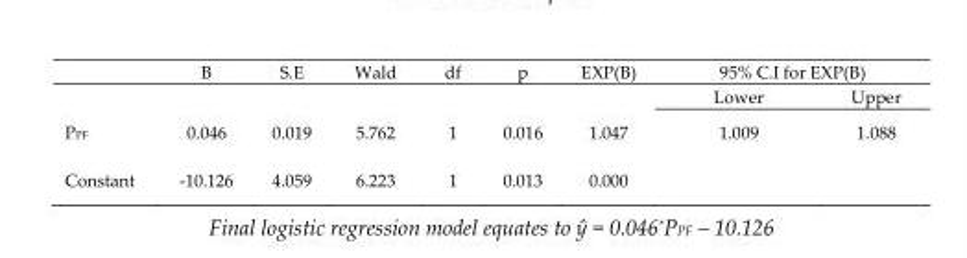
<table><thead><tr><td rowspan="2"></td><td rowspan="2">B</td><td rowspan="2">S.E</td><td rowspan="2">Wald</td><td rowspan="2">df</td><td rowspan="2">p</td><td rowspan="2">EXP(B)</td><td colspan="2">95% C.I for EXP(B)</td></tr><tr><td>Lower</td><td>Upper</td></tr></thead><tbody><tr><td>P<sub>PF</sub></td><td>0.046</td><td>0.019</td><td>5.762</td><td>1</td><td>0.016</td><td>1.047</td><td>1.009</td><td>1.088</td></tr><tr><td>Constant</td><td>-10.126</td><td>4.059</td><td>6.223</td><td>1</td><td>0.013</td><td>0.000</td><td></td><td></td></tr></tbody></table>